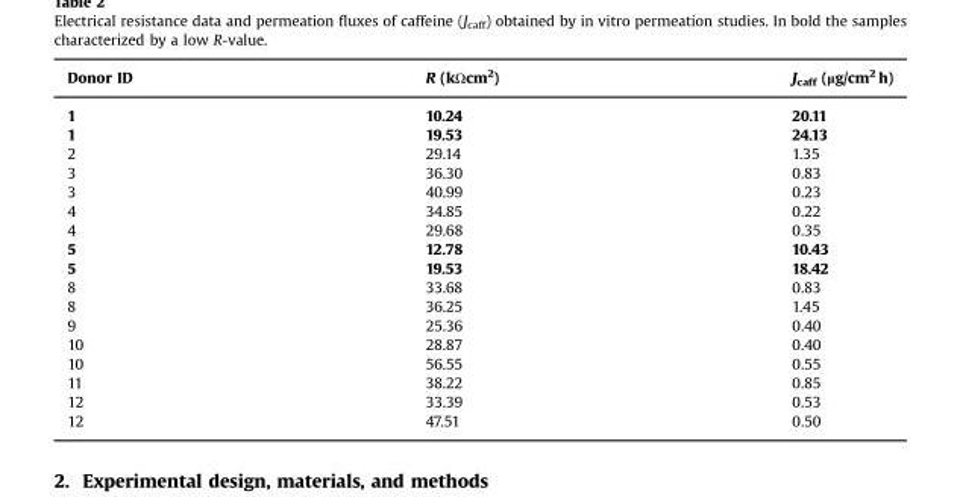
<table><thead><tr><td>Donor ID</td><td>R (kΩcm<sup>2</sup>)</td><td>J<sub>caff</sub> (µg/cm<sup>2</sup> h)</td></tr></thead><tbody><tr><td>1</td><td>10.24</td><td>20.11</td></tr><tr><td>1</td><td>19.53</td><td>24.13</td></tr><tr><td>2</td><td>29.14</td><td>1.35</td></tr><tr><td>3</td><td>36.30</td><td>0.83</td></tr><tr><td>3</td><td>40.99</td><td>0.23</td></tr><tr><td>4</td><td>34.85</td><td>0.22</td></tr><tr><td>4</td><td>29.68</td><td>0.35</td></tr><tr><td>5</td><td>12.78</td><td>10.43</td></tr><tr><td>5</td><td>19.53</td><td>18.42</td></tr><tr><td>8</td><td>33.68</td><td>0.83</td></tr><tr><td>8</td><td>36.25</td><td>1.45</td></tr><tr><td>9</td><td>25.36</td><td>0.40</td></tr><tr><td>10</td><td>28.87</td><td>0.40</td></tr><tr><td>10</td><td>56.55</td><td>0.55</td></tr><tr><td>11</td><td>38.22</td><td>0.85</td></tr><tr><td>12</td><td>33.39</td><td>0.53</td></tr><tr><td>12</td><td>47.51</td><td>0.50</td></tr></tbody></table>